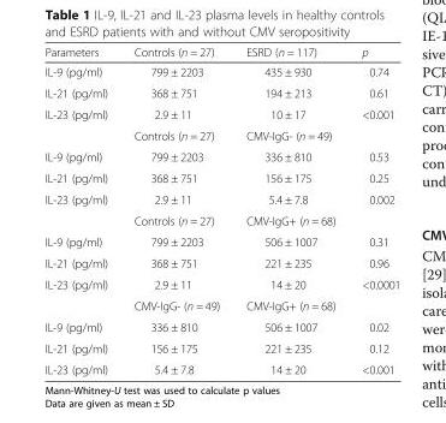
<table><thead><tr><td>Parameters</td><td>Controls (n = 27)</td><td>ESRD (n = 117)</td><td>p</td></tr></thead><tbody><tr><td>IL-9 (pg/ml)</td><td>799 ± 2203</td><td>435 ± 930</td><td>0.74</td></tr><tr><td>IL-21 (pg/ml)</td><td>368 ± 751</td><td>194 ± 213</td><td>0.61</td></tr><tr><td rowspan="2">IL-23 (pg/ml)</td><td>2.9 ± 11</td><td>10 ± 17</td><td>&lt;0.001</td></tr><tr><td>Controls (n = 27)</td><td>CMV-IgG- (n = 49)</td><td></td></tr><tr><td>IL-9 (pg/ml)</td><td>799 ± 2203</td><td>336 ± 810</td><td>0.53</td></tr><tr><td>IL-21 (pg/ml)</td><td>368 ± 751</td><td>156 ± 175</td><td>0.25</td></tr><tr><td rowspan="2">IL-23 (pg/ml)</td><td>2.9 ± 11</td><td>5.4 ± 7.8</td><td>0.002</td></tr><tr><td>Controls (n = 27)</td><td>CMV-IgG+ (n = 68)</td><td></td></tr><tr><td>IL-9 (pg/ml)</td><td>799 ± 2203</td><td>506 ± 1007</td><td>0.31</td></tr><tr><td>IL-21 (pg/ml)</td><td>368 ± 751</td><td>221 ± 235</td><td>0.96</td></tr><tr><td rowspan="2">IL-23 (pg/ml)</td><td>2.9 ± 11</td><td>14 ± 20</td><td>&lt;0.0001</td></tr><tr><td>CMV-IgG- (n = 49)</td><td>CMV-IgG+ (n = 68)</td><td></td></tr><tr><td>IL-9 (pg/ml)</td><td>336 ± 810</td><td>506 ± 1007</td><td>0.02</td></tr><tr><td>IL-21 (pg/ml)</td><td>156 ± 175</td><td>221 ± 235</td><td>0.12</td></tr><tr><td>IL-23 (pg/ml)</td><td>5.4 ± 7.8</td><td>14 ± 20</td><td>&lt;0.001</td></tr></tbody></table>